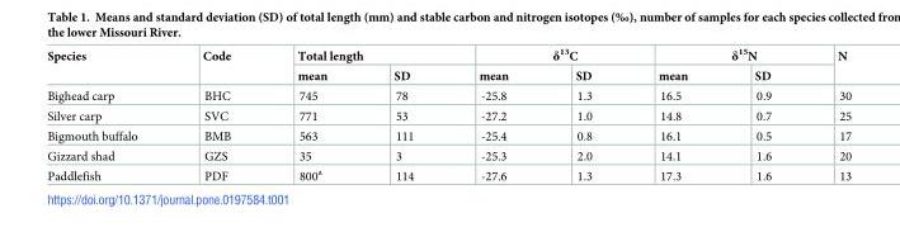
<table><thead><tr><td rowspan="2">Species</td><td rowspan="2">Code</td><td colspan="2">Total length</td><td colspan="2">δ<sup>13</sup>C</td><td colspan="2">δ<sup>15</sup>N</td><td rowspan="2">N</td></tr><tr><td>mean</td><td>SD</td><td>mean</td><td>SD</td><td>mean</td><td>SD</td></tr></thead><tbody><tr><td>Bighead carp</td><td>BHC</td><td>745</td><td>78</td><td>-25.8</td><td>1.3</td><td>16.5</td><td>0.9</td><td>30</td></tr><tr><td>Silver carp</td><td>SVC</td><td>771</td><td>53</td><td>-27.2</td><td>1.0</td><td>14.8</td><td>0.7</td><td>25</td></tr><tr><td>Bigmouth buffalo</td><td>BMB</td><td>563</td><td>111</td><td>-25.4</td><td>0.8</td><td>16.1</td><td>0.5</td><td>17</td></tr><tr><td>Gizzard shad</td><td>GZS</td><td>35</td><td>3</td><td>-25.3</td><td>2.0</td><td>14.1</td><td>1.6</td><td>20</td></tr><tr><td>Paddlefish</td><td>PDF</td><td>800<sup>a</sup></td><td>114</td><td>-27.6</td><td>1.3</td><td>17.3</td><td>1.6</td><td>13</td></tr></tbody></table>